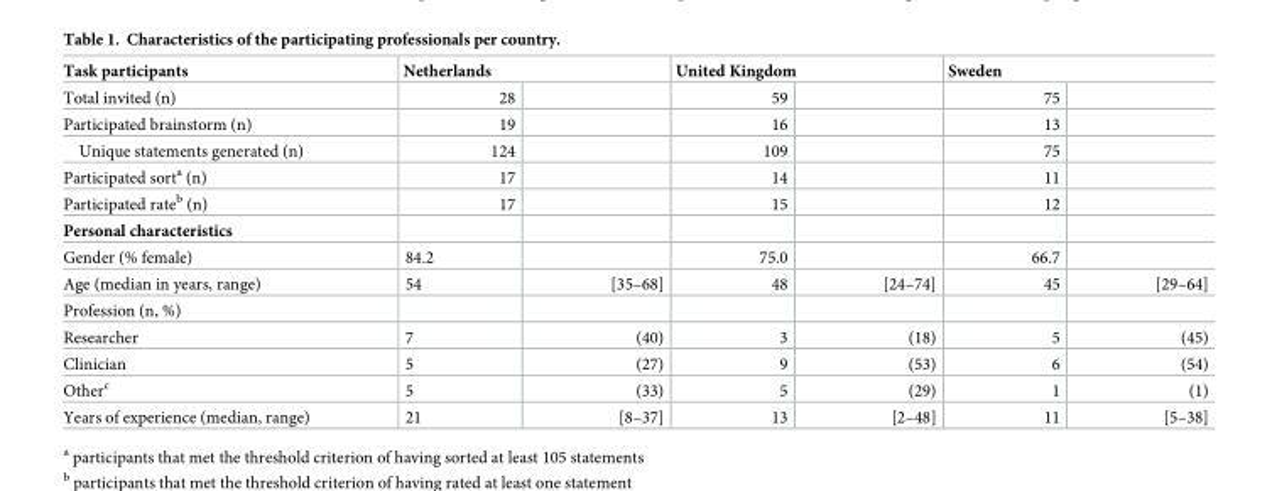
<table><thead><tr><td rowspan="2">Task participants Total invited (n)</td><td colspan="2">Netherlands</td><td colspan="2">United Kingdom</td><td colspan="2">Sweden</td></tr><tr><td>28</td><td></td><td>59</td><td></td><td>75</td><td></td></tr></thead><tbody><tr><td>Participated brainstorm (n)</td><td>19</td><td></td><td>16</td><td></td><td>13</td><td></td></tr><tr><td>Unique statements generated (n)</td><td>124</td><td></td><td>109</td><td></td><td>75</td><td></td></tr><tr><td>Participated sort<sup>a</sup> (n)</td><td>17</td><td></td><td>14</td><td></td><td>11</td><td></td></tr><tr><td>Participated rate<sup>b</sup> (n)</td><td>17</td><td></td><td>15</td><td></td><td>12</td><td></td></tr><tr><td colspan="7">Personal characteristics</td></tr><tr><td>Gender (% female)</td><td>84.2</td><td></td><td>75.0</td><td></td><td>66.7</td><td></td></tr><tr><td>Age (median in years, range)</td><td>54</td><td>[35–68]</td><td>48</td><td>[24–74]</td><td>45</td><td>[29–64]</td></tr><tr><td colspan="7">Profession (n, %)</td></tr><tr><td>Researcher</td><td>7</td><td>(40)</td><td>3</td><td>(18)</td><td>5</td><td>(45)</td></tr><tr><td>Clinician</td><td>5</td><td>(27)</td><td>9</td><td>(53)</td><td>6</td><td>(54)</td></tr><tr><td>Other<sup>c</sup></td><td>5</td><td>(33)</td><td>5</td><td>(29)</td><td>1</td><td>(1)</td></tr><tr><td>Years of experience (median, range)</td><td>21</td><td>[8–37]</td><td>13</td><td>[2–48]</td><td>11</td><td>[5–38]</td></tr></tbody></table>